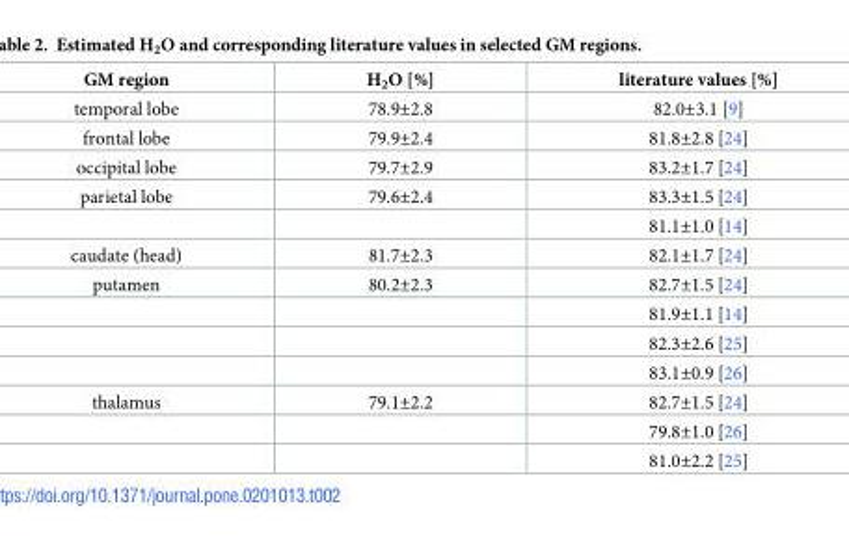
<table><thead><tr><td>GM region</td><td>H<sub>2</sub>O [%]</td><td>literature values [%]</td></tr></thead><tbody><tr><td>temporal lobe</td><td>78.9±2.8</td><td>82.0±3.1 [9]</td></tr><tr><td>frontal lobe</td><td>79.9±2.4</td><td>81.8±2.8 [24]</td></tr><tr><td>occipital lobe</td><td>79.7±2.9</td><td>83.2±1.7 [24]</td></tr><tr><td rowspan="2">parietal lobe</td><td>79.6±2.4</td><td>83.3±1.5 [24]</td></tr><tr><td></td><td>81.1±1.0 [14]</td></tr><tr><td>caudate (head)</td><td>81.7±2.3</td><td>82.1±1.7 [24]</td></tr><tr><td rowspan="4">putamen</td><td>80.2±2.3</td><td>82.7±1.5 [24]</td></tr><tr><td></td><td>81.9±1.1 [14]</td></tr><tr><td></td><td>82.3±2.6 [25]</td></tr><tr><td></td><td>83.1±0.9 [26]</td></tr><tr><td rowspan="3">thalamus</td><td>79.1±2.2</td><td>82.7±1.5 [24]</td></tr><tr><td></td><td>79.8±1.0 [26]</td></tr><tr><td></td><td>81.0±2.2 [25]</td></tr></tbody></table>